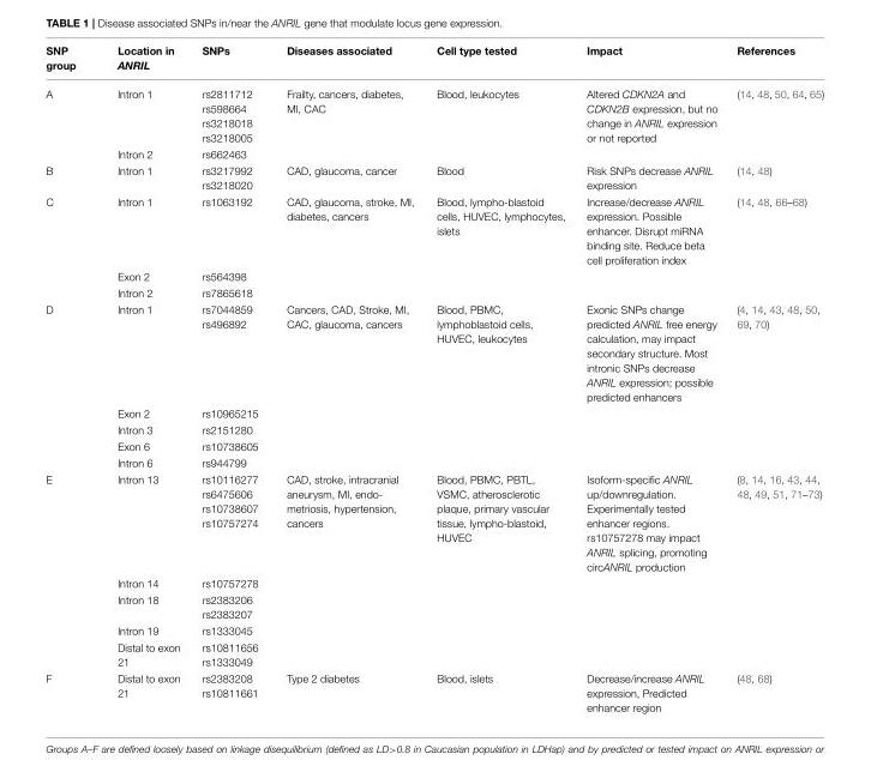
<table><thead><tr><td>SNP group</td><td>Location in ANRIL</td><td>SNPs</td><td>Diseases associated</td><td>Cell type tested</td><td>Impact</td><td>References</td></tr></thead><tbody><tr><td rowspan="2">A</td><td>Intron 1</td><td>rs2811712 rs598664 rs3218018 rs3218005</td><td>Frailty, cancers, diabetes, MI, CAC</td><td>Blood, leukocytes</td><td>Altered CDKN2A and CDKN2B expression, but no change in ANRIL expression or not reported</td><td>(14, 48, 50, 64, 65)</td></tr><tr><td>Intron 2</td><td>rs662463</td><td></td><td></td><td></td><td></td></tr><tr><td>B</td><td>Intron 1</td><td>rs3217992 rs3218020</td><td>CAD, glaucoma, cancer</td><td>Blood</td><td>Risk SNPs decrease ANRIL expression</td><td>(14, 48)</td></tr><tr><td rowspan="3">C</td><td>Intron 1</td><td>rs1063192</td><td>CAD, glaucoma, stroke, MI, diabetes, cancers</td><td>Blood, lympho-blastoid cells, HUVEC, lymphocytes, islets</td><td>Increase/decrease ANRIL expression. Possible enhancer. Disrupt miRNA binding site. Reduce beta cell proliferation index</td><td>(14, 48, 66–68)</td></tr><tr><td>Exon 2</td><td>rs564398</td><td></td><td></td><td></td><td></td></tr><tr><td>Intron 2</td><td>rs7865618</td><td></td><td></td><td></td><td></td></tr><tr><td rowspan="5">D</td><td>Intron 1</td><td>rs7044859 rs496892</td><td>Cancers, CAD, Stroke, MI, CAC, glaucoma, cancers</td><td>Blood, PBMC, lymphoblastoid cells, HUVEC, leukocytes</td><td>Exonic SNPs change predicted ANRIL free energy calculation, may impact secondary structure. Most intronic SNPs decrease ANRIL expression; possible predicted enhancers</td><td>(4, 14, 43, 48, 50, 69, 70)</td></tr><tr><td>Exon 2</td><td>rs10965215</td><td></td><td></td><td></td><td></td></tr><tr><td>Intron 3</td><td>rs2151280</td><td></td><td></td><td></td><td></td></tr><tr><td>Exon 6</td><td>rs10738605</td><td></td><td></td><td></td><td></td></tr><tr><td>Intron 6</td><td>rs944799</td><td></td><td></td><td></td><td></td></tr><tr><td rowspan="5">E</td><td>Intron 13</td><td>rs10116277 rs6475606 rs10738607 rs10757274</td><td>CAD, stroke, intracranial aneurysm, MI, endo- metriosis, hypertension, cancers</td><td>Blood, PBMC, PBTL, VSMC, atherosclerotic plaque, primary vascular tissue, lympho-blastoid, HUVEC</td><td>Isoform-specific ANRIL up/downregulation. Experimentally tested enhancer regions. rs10757278 may impact ANRIL splicing, promoting circANRIL production</td><td>(8, 14, 16, 43, 44, 48, 49, 51, 71–73)</td></tr><tr><td>Intron 14</td><td>rs10757278</td><td></td><td></td><td></td><td></td></tr><tr><td>Intron 18</td><td>rs2383206 rs2383207</td><td></td><td></td><td></td><td></td></tr><tr><td>Intron 19</td><td>rs1333045</td><td></td><td></td><td></td><td></td></tr><tr><td>Distal to exon 21</td><td>rs10811656 rs1333049</td><td></td><td></td><td></td><td></td></tr><tr><td>F</td><td>Distal to exon 21</td><td>rs2383208 rs10811661</td><td>Type 2 diabetes</td><td>Blood, islets</td><td>Decrease/increase ANRIL expression, Predicted enhancer region</td><td>(48, 68)</td></tr></tbody></table>